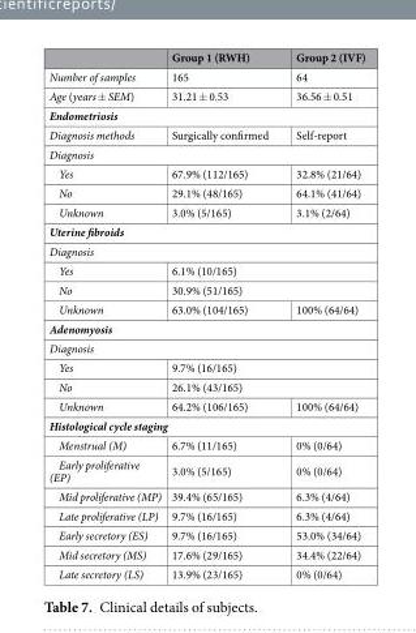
<table><thead><tr><td></td><td>Group 1 (RWH)</td><td>Group 2 (IVF)</td></tr></thead><tbody><tr><td>Number of samples</td><td>165</td><td>64</td></tr><tr><td>Age (years ± SEM)</td><td>31.21 ± 0.53</td><td>36.56 ± 0.51</td></tr><tr><td colspan="3">Endometriosis</td></tr><tr><td>Diagnosis methods</td><td>Surgically confirmed</td><td>Self-report</td></tr><tr><td colspan="3">Diagnosis</td></tr><tr><td>Yes</td><td>67.9% (112/165)</td><td>32.8% (21/64)</td></tr><tr><td>No</td><td>29.1% (48/165)</td><td>64.1% (41/64)</td></tr><tr><td>Unknown</td><td>3.0% (5/165)</td><td>3.1% (2/64)</td></tr><tr><td colspan="3">Uterine fibroids</td></tr><tr><td colspan="3">Diagnosis</td></tr><tr><td>Yes</td><td colspan="2">6.1% (10/165)</td></tr><tr><td>No</td><td colspan="2">30.9% (51/165)</td></tr><tr><td>Unknown</td><td>63.0% (104/165)</td><td>100% (64/64)</td></tr><tr><td colspan="3">Adenomyosis</td></tr><tr><td colspan="3">Diagnosis</td></tr><tr><td>Yes</td><td colspan="2">9.7% (16/165)</td></tr><tr><td>No</td><td colspan="2">26.1% (43/165)</td></tr><tr><td>Unknown</td><td>64.2% (106/165)</td><td>100% (64/64)</td></tr><tr><td colspan="3">Histological cycle staging</td></tr><tr><td>Menstrual (M)</td><td>6.7% (11/165)</td><td>0% (0/64)</td></tr><tr><td>Early proliferative (EP)</td><td>3.0% (5/165)</td><td>0% (0/64)</td></tr><tr><td>Mid proliferative (MP)</td><td>39.4% (65/165)</td><td>6.3% (4/64)</td></tr><tr><td>Late proliferative (LP)</td><td>9.7% (16/165)</td><td>6.3% (4/64)</td></tr><tr><td>Early secretory (ES)</td><td>9.7% (16/165)</td><td>53.0% (34/64)</td></tr><tr><td>Mid secretory (MS)</td><td>17.6% (29/165)</td><td>34.4% (22/64)</td></tr><tr><td>Late secretory (LS)</td><td>13.9% (23/165)</td><td>0% (0/64)</td></tr></tbody></table>